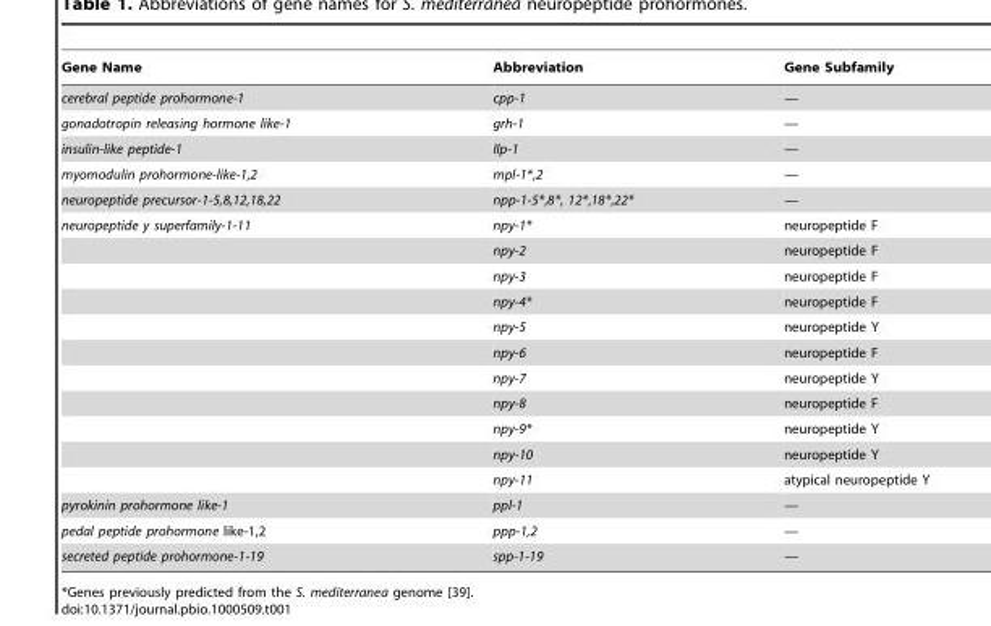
<table><thead><tr><td>Gene Name</td><td>Abbreviation</td><td>Gene Subfamily</td></tr></thead><tbody><tr><td>cerebral peptide prohormone-1</td><td>cpp-1</td><td>—</td></tr><tr><td>gonadotropin releasing hormone like-1</td><td>grh-1</td><td>—</td></tr><tr><td>insulin-like peptide-1</td><td>Ilp-1</td><td>—</td></tr><tr><td>myomodulin prohormone-like-1,2</td><td>mpl-1*,2</td><td>—</td></tr><tr><td>neuropeptide precursor-1-5,8,12,18,22</td><td>npp-1-5*,8*, 12*,18*,22*</td><td>—</td></tr><tr><td rowspan="11">neuropeptide y superfamily-1-11</td><td>npy-1*</td><td>neuropeptide F</td></tr><tr><td>npy-2</td><td>neuropeptide F</td></tr><tr><td>npy-3</td><td>neuropeptide F</td></tr><tr><td>npy-4*</td><td>neuropeptide F</td></tr><tr><td>npy-5</td><td>neuropeptide Y</td></tr><tr><td>npy-6</td><td>neuropeptide F</td></tr><tr><td>npy-7</td><td>neuropeptide Y</td></tr><tr><td>npy-8</td><td>neuropeptide F</td></tr><tr><td>npy-9*</td><td>neuropeptide Y</td></tr><tr><td>npy-10</td><td>neuropeptide Y</td></tr><tr><td>npy-11</td><td>atypical neuropeptide Y</td></tr><tr><td>pyrokinin prohormone like-1</td><td>ppl-1</td><td>—</td></tr><tr><td>pedal peptide prohormone like-1,2</td><td>ppp-1,2</td><td>—</td></tr><tr><td>secreted peptide prohormone-1-19</td><td>spp-1-19</td><td>—</td></tr></tbody></table>